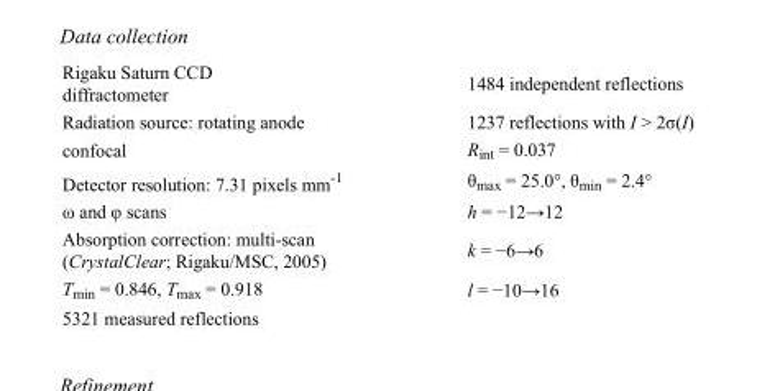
<table><tbody><tr><td>Rigaku Saturn CCD diffractometer</td><td>1484 independent reflections</td></tr><tr><td>Radiation source: rotating anode</td><td>1237 reflections with I &gt; 2σ(I)</td></tr><tr><td>confocal</td><td>R<sub>int</sub> = 0.037</td></tr><tr><td>Detector resolution: 7.31 pixels mm<sup>-1</sup></td><td>θ<sub>max</sub> = 25.0°, θ<sub>min</sub> = 2.4°</td></tr><tr><td>ω and φ scans</td><td>h = −12→12</td></tr><tr><td>Absorption correction: multi-scan (CrystalClear; Rigaku/MSC, 2005)</td><td>k = −6→6</td></tr><tr><td>T<sub>min</sub> = 0.846, T<sub>max</sub> = 0.918</td><td>l = −10→16</td></tr><tr><td>5321 measured reflections</td><td></td></tr></tbody></table>